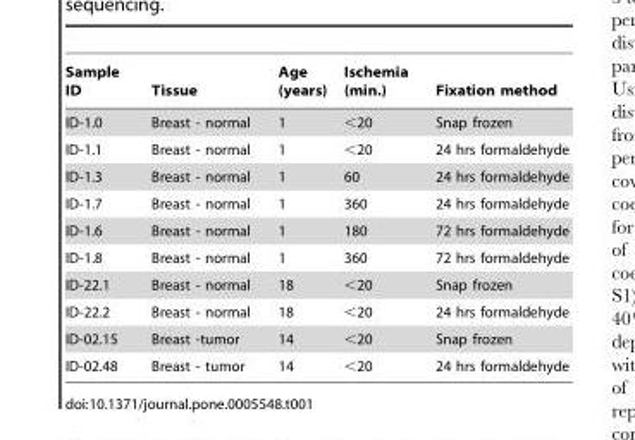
<table><thead><tr><td>Sample ID</td><td>Tissue</td><td>Age (years)</td><td>Ischemia (min.)</td><td>Fixation method</td></tr></thead><tbody><tr><td>ID-1.0</td><td>Breast - normal</td><td>1</td><td>&lt;20</td><td>Snap frozen</td></tr><tr><td>ID-1.1</td><td>Breast - normal</td><td>1</td><td>&lt;20</td><td>24 hrs formaldehyde</td></tr><tr><td>ID-1.3</td><td>Breast - normal</td><td>1</td><td>60</td><td>24 hrs formaldehyde</td></tr><tr><td>ID-1.7</td><td>Breast - normal</td><td>1</td><td>360</td><td>24 hrs formaldehyde</td></tr><tr><td>ID-1.6</td><td>Breast - normal</td><td>1</td><td>180</td><td>72 hrs formaldehyde</td></tr><tr><td>ID-1.8</td><td>Breast - normal</td><td>1</td><td>360</td><td>72 hrs formaldehyde</td></tr><tr><td>ID-22.1</td><td>Breast - normal</td><td>18</td><td>&lt;20</td><td>Snap frozen</td></tr><tr><td>ID-22.2</td><td>Breast - normal</td><td>18</td><td>&lt;20</td><td>24 hrs formaldehyde</td></tr><tr><td>ID-02.15</td><td>Breast -tumor</td><td>14</td><td>&lt;20</td><td>Snap frozen</td></tr><tr><td>ID-02.48</td><td>Breast - tumor</td><td>14</td><td>&lt;20</td><td>24 hrs formaldehyde</td></tr></tbody></table>